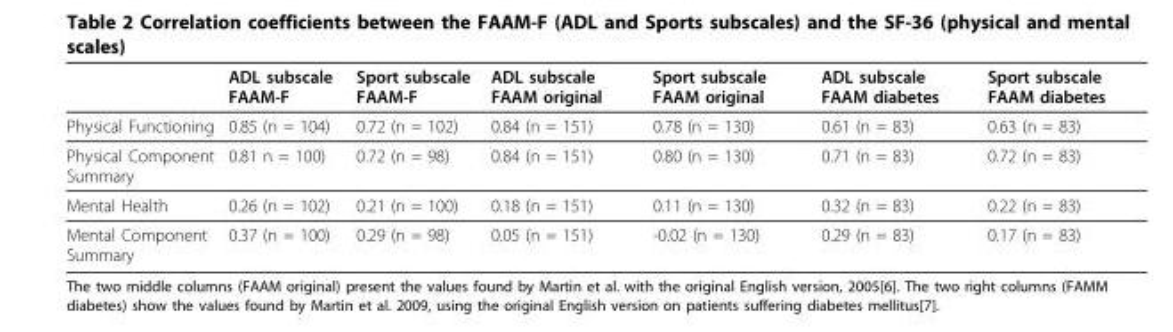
<table><thead><tr><td></td><td>ADL subscale FAAM-F</td><td>Sport subscale FAAM-F</td><td>ADL subscale FAAM original</td><td>Sport subscale FAAM original</td><td>ADL subscale FAAM diabetes</td><td>Sport subscale FAAM diabetes</td></tr></thead><tbody><tr><td>Physical Functioning</td><td>0.85 (n = 104)</td><td>0.72 (n = 102)</td><td>0.84 (n = 151)</td><td>0.78 (n = 130)</td><td>0.61 (n = 83)</td><td>0.63 (n = 83)</td></tr><tr><td>Physical Component Summary</td><td>0.81 n = 100)</td><td>0.72 (n = 98)</td><td>0.84 (n = 151)</td><td>0.80 (n = 130)</td><td>0.71 (n = 83)</td><td>0.72 (n = 83)</td></tr><tr><td>Mental Health</td><td>0.26 (n = 102)</td><td>0.21 (n = 100)</td><td>0.18 (n = 151)</td><td>0.11 (n = 130)</td><td>0.32 (n = 83)</td><td>0.22 (n = 83)</td></tr><tr><td>Mental Component Summary</td><td>0.37 (n = 100)</td><td>0.29 (n = 98)</td><td>0.05 (n = 151)</td><td>-0.02 (n = 130)</td><td>0.29 (n = 83)</td><td>0.17 (n = 83)</td></tr></tbody></table>